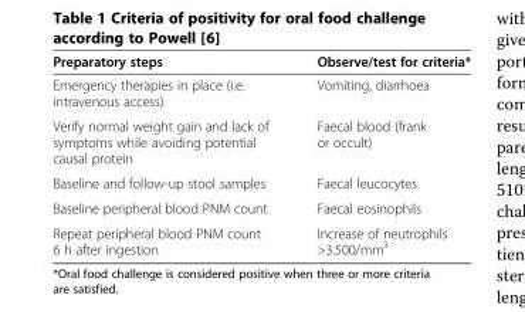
<table><thead><tr><td>Preparatory steps</td><td>Observe/test for criteria*</td></tr></thead><tbody><tr><td>Emergency therapies in place (i.e. intravenous access)</td><td>Vomiting, diarrhoea</td></tr><tr><td>Verify normal weight gain and lack of symptoms while avoiding potential causal protein</td><td>Faecal blood (frank or occult)</td></tr><tr><td>Baseline and follow-up stool samples</td><td>Faecal leucocytes</td></tr><tr><td>Baseline peripheral blood PNM count</td><td>Faecal eosinophils</td></tr><tr><td>Repeat peripheral blood PNM count 6 h after ingestion</td><td>Increase of neutrophils &gt;3.500/mm<sup>3</sup></td></tr></tbody></table>